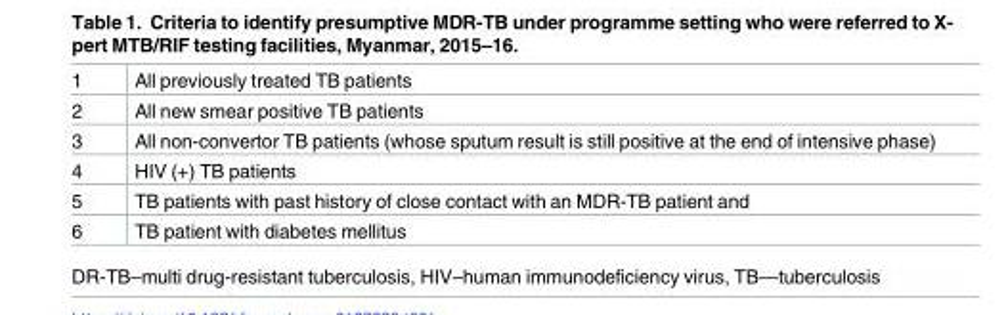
<table><tbody><tr><td>1</td><td>All previously treated TB patients</td></tr><tr><td>2</td><td>All new smear positive TB patients</td></tr><tr><td>3</td><td>All non-convertor TB patients (whose sputum result is still positive at the end of intensive phase)</td></tr><tr><td>4</td><td>HIV (+) TB patients</td></tr><tr><td>5</td><td>TB patients with past history of close contact with an MDR-TB patient and</td></tr><tr><td>6</td><td>TB patient with diabetes mellitus</td></tr></tbody></table>